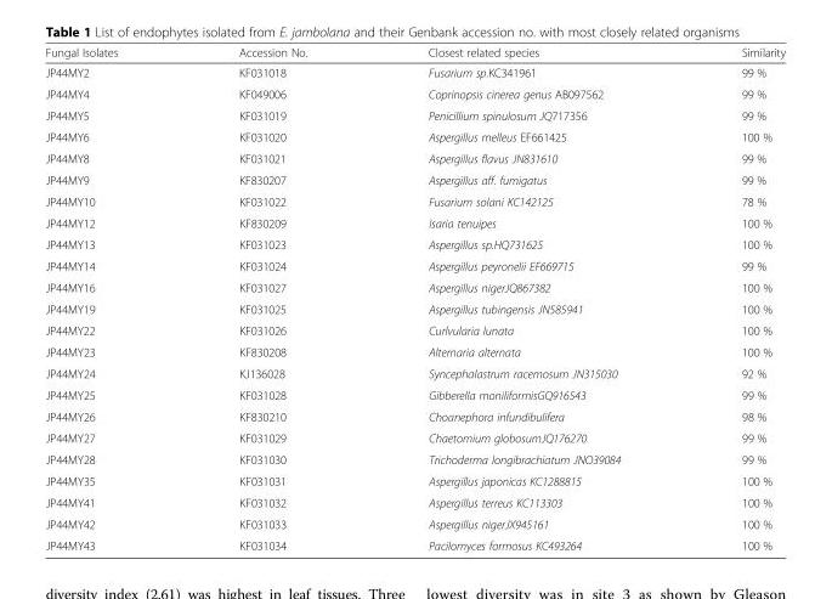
<table><thead><tr><td>Fungal Isolates</td><td>Accession No.</td><td>Closest related species</td><td>Similarity</td></tr></thead><tbody><tr><td>JP44MY2</td><td>KF031018</td><td>Fusarium sp.KC341961</td><td>99 %</td></tr><tr><td>JP44MY4</td><td>KF049006</td><td>Coprinopsis cinerea genus AB097562</td><td>99 %</td></tr><tr><td>JP44MY5</td><td>KF031019</td><td>Penicillium spinulosum JQ717356</td><td>99 %</td></tr><tr><td>JP44MY6</td><td>KF031020</td><td>Aspergillus melleus EF661425</td><td>100 %</td></tr><tr><td>JP44MY8</td><td>KF031021</td><td>Aspergillus flavus JN831610</td><td>99 %</td></tr><tr><td>JP44MY9</td><td>KF830207</td><td>Aspergillus aff. fumigatus</td><td>99 %</td></tr><tr><td>JP44MY10</td><td>KF031022</td><td>Fusarium solani KC142125</td><td>78 %</td></tr><tr><td>JP44MY12</td><td>KF830209</td><td>Isaria tenuipes</td><td>100 %</td></tr><tr><td>JP44MY13</td><td>KF031023</td><td>Aspergillus sp.HQ731625</td><td>100 %</td></tr><tr><td>JP44MY14</td><td>KF031024</td><td>Aspergillus peyronelii EF669715</td><td>99 %</td></tr><tr><td>JP44MY16</td><td>KF031027</td><td>Aspergillus nigerJQ867382</td><td>100 %</td></tr><tr><td>JP44MY19</td><td>KF031025</td><td>Aspergillus tubingensis JN585941</td><td>100 %</td></tr><tr><td>JP44MY22</td><td>KF031026</td><td>Curlvularia lunata</td><td>100 %</td></tr><tr><td>JP44MY23</td><td>KF830208</td><td>Alternaria alternata</td><td>100 %</td></tr><tr><td>JP44MY24</td><td>KJ136028</td><td>Syncephalastrum racemosum JN315030</td><td>92 %</td></tr><tr><td>JP44MY25</td><td>KF031028</td><td>Gibberella moniliformisGQ916543</td><td>99 %</td></tr><tr><td>JP44MY26</td><td>KF830210</td><td>Choanephora infundibulifera</td><td>98 %</td></tr><tr><td>JP44MY27</td><td>KF031029</td><td>Chaetomium globosumJQ176270</td><td>99 %</td></tr><tr><td>JP44MY28</td><td>KF031030</td><td>Trichoderma longibrachiatum JNO39084</td><td>99 %</td></tr><tr><td>JP44MY35</td><td>KF031031</td><td>Aspergillus japonicas KC1288815</td><td>100 %</td></tr><tr><td>JP44MY41</td><td>KF031032</td><td>Aspergillus terreus KC113303</td><td>100 %</td></tr><tr><td>JP44MY42</td><td>KF031033</td><td>Aspergillus nigerJX945161</td><td>100 %</td></tr><tr><td>JP44MY43</td><td>KF031034</td><td>Pacilomyces formosus KC493264</td><td>100 %</td></tr></tbody></table>